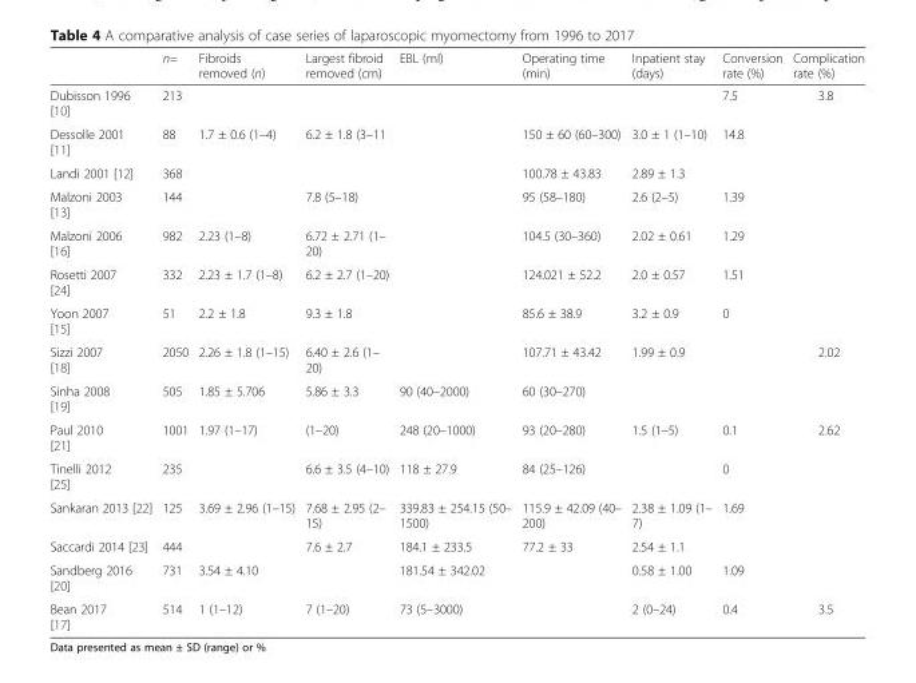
<table><thead><tr><td></td><td>n=</td><td>Fibroids removed (n)</td><td>Largest fibroid removed (cm)</td><td>EBL (ml)</td><td>Operating time (min)</td><td>Inpatient stay (days)</td><td>Conversion rate (%)</td><td>Complication rate (%)</td></tr></thead><tbody><tr><td>Dubisson 1996 [10]</td><td>213</td><td></td><td></td><td></td><td></td><td></td><td>7.5</td><td>3.8</td></tr><tr><td>Dessolle 2001 [11]</td><td>88</td><td>1.7 ± 0.6 (1–4)</td><td>6.2 ± 1.8 (3–11</td><td></td><td>150 ± 60 (60–300)</td><td>3.0 ± 1 (1–10)</td><td>14.8</td><td></td></tr><tr><td>Landi 2001 [12]</td><td>368</td><td></td><td></td><td></td><td>100.78 ± 43.83</td><td>2.89 ± 1.3</td><td></td><td></td></tr><tr><td>Malzoni 2003 [13]</td><td>144</td><td></td><td>7.8 (5–18)</td><td></td><td>95 (58–180)</td><td>2.6 (2–5)</td><td>1.39</td><td></td></tr><tr><td>Malzoni 2006 [16]</td><td>982</td><td>2.23 (1–8)</td><td>6.72 ± 2.71 (1– 20)</td><td></td><td>104.5 (30–360)</td><td>2.02 ± 0.61</td><td>1.29</td><td></td></tr><tr><td>Rosetti 2007 [24]</td><td>332</td><td>2.23 ± 1.7 (1–8)</td><td>6.2 ± 2.7 (1–20)</td><td></td><td>124.021 ± 52.2</td><td>2.0 ± 0.57</td><td>1.51</td><td></td></tr><tr><td>Yoon 2007 [15]</td><td>51</td><td>2.2 ± 1.8</td><td>9.3 ± 1.8</td><td></td><td>85.6 ± 38.9</td><td>3.2 ± 0.9</td><td>0</td><td></td></tr><tr><td>Sizzi 2007 [18]</td><td>2050</td><td>2.26 ± 1.8 (1–15)</td><td>6.40 ± 2.6 (1– 20)</td><td></td><td>107.71 ± 43.42</td><td>1.99 ± 0.9</td><td></td><td>2.02</td></tr><tr><td>Sinha 2008 [19]</td><td>505</td><td>1.85 ± 5.706</td><td>5.86 ± 3.3</td><td>90 (40–2000)</td><td>60 (30–270)</td><td></td><td></td><td></td></tr><tr><td>Paul 2010 [21]</td><td>1001</td><td>1.97 (1–17)</td><td>(1–20)</td><td>248 (20–1000)</td><td>93 (20–280)</td><td>1.5 (1–5)</td><td>0.1</td><td>2.62</td></tr><tr><td>Tinelli 2012 [25]</td><td>235</td><td></td><td>6.6 ± 3.5 (4–10)</td><td>118 ± 27.9</td><td>84 (25–126)</td><td></td><td>0</td><td></td></tr><tr><td>Sankaran 2013 [22]</td><td>125</td><td>3.69 ± 2.96 (1–15)</td><td>7.68 ± 2.95 (2– 15)</td><td>339.83 ± 254.15 (50– 1500)</td><td>115.9 ± 42.09 (40– 200)</td><td>2.38 ± 1.09 (1– 7)</td><td>1.69</td><td></td></tr><tr><td>Saccardi 2014 [23]</td><td>444</td><td></td><td>7.6 ± 2.7</td><td>184.1 ± 233.5</td><td>77.2 ± 33</td><td>2.54 ± 1.1</td><td></td><td></td></tr><tr><td>Sandberg 2016 [20]</td><td>731</td><td>3.54 ± 4.10</td><td></td><td>181.54 ± 342.02</td><td></td><td>0.58 ± 1.00</td><td>1.09</td><td></td></tr><tr><td>Bean 2017 [17]</td><td>514</td><td>1 (1–12)</td><td>7 (1–20)</td><td>73 (5–3000)</td><td></td><td>2 (0–24)</td><td>0.4</td><td>3.5</td></tr></tbody></table>